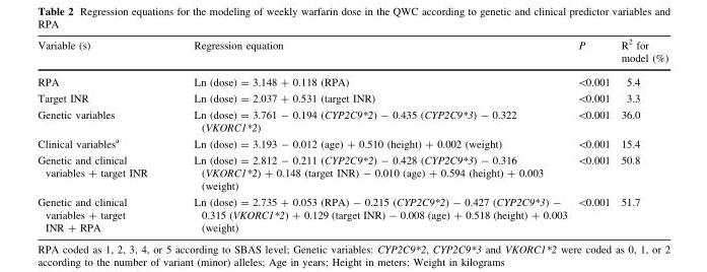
<table><thead><tr><td>Variable (s)</td><td>Regression equation</td><td>P</td><td>R<sup>2</sup> for model (%)</td></tr></thead><tbody><tr><td>RPA</td><td>Ln (dose) = 3.148 + 0.118 (RPA)</td><td>&lt;0.001</td><td>5.4</td></tr><tr><td>Target INR</td><td>Ln (dose) = 2.037 + 0.531 (target INR)</td><td>&lt;0.001</td><td>3.3</td></tr><tr><td>Genetic variables</td><td>Ln (dose) = 3.761 - 0.194 (CYP2C9*2) - 0.435 (CYP2C9*3) - 0.322 (VKORC1*2)</td><td>&lt;0.001</td><td>36.0</td></tr><tr><td>Clinical variables<sup>a</sup></td><td>Ln (dose) = 3.193 - 0.012 (age) + 0.510 (height) + 0.002 (weight)</td><td>&lt;0.001</td><td>15.4</td></tr><tr><td>Genetic and clinical variables + target INR</td><td>Ln (dose) = 2.812 - 0.211 (CYP2C9*2) - 0.428 (CYP2C9*3) - 0.316 (VKORC1*2) + 0.148 (target INR) - 0.010 (age) + 0.594 (height) + 0.003 (weight)</td><td>&lt;0.001</td><td>50.8</td></tr><tr><td>Genetic and clinical variables + target INR + RPA</td><td>Ln (dose) = 2.735 + 0.053 (RPA) - 0.215 (CYP2C9*2) - 0.427 (CYP2C9*3) - 0.315 (VKORC1*2) + 0.129 (target INR) - 0.008 (age) + 0.518 (height) + 0.003 (weight)</td><td>&lt;0.001</td><td>51.7</td></tr></tbody></table>